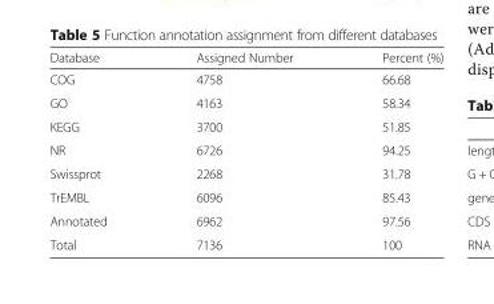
<table><thead><tr><td>Database</td><td>Assigned Number</td><td>Percent (%)</td></tr></thead><tbody><tr><td>COG</td><td>4758</td><td>66.68</td></tr><tr><td>GO</td><td>4163</td><td>58.34</td></tr><tr><td>KEGG</td><td>3700</td><td>51.85</td></tr><tr><td>NR</td><td>6726</td><td>94.25</td></tr><tr><td>Swissprot</td><td>2268</td><td>31.78</td></tr><tr><td>TrEMBL</td><td>6096</td><td>85.43</td></tr><tr><td>Annotated</td><td>6962</td><td>97.56</td></tr><tr><td>Total</td><td>7136</td><td>100</td></tr></tbody></table>